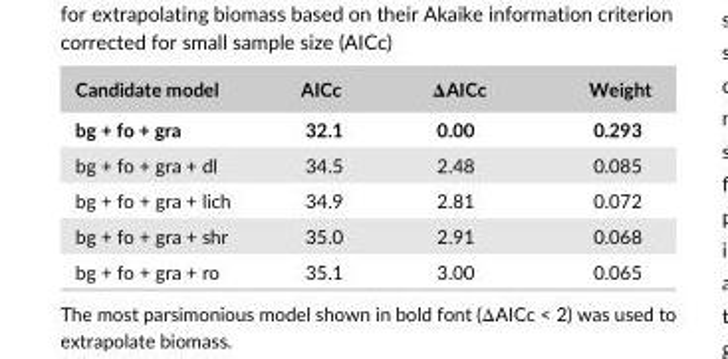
<table><thead><tr><td>Candidate model</td><td>AICc</td><td>ΔAICc</td><td>Weight</td></tr></thead><tbody><tr><td>bg + fo + gra</td><td>32.1</td><td>0.00</td><td>0.293</td></tr><tr><td>bg + fo + gra + dl</td><td>34.5</td><td>2.48</td><td>0.085</td></tr><tr><td>bg + fo + gra + lich</td><td>34.9</td><td>2.81</td><td>0.072</td></tr><tr><td>bg + fo + gra + shr</td><td>35.0</td><td>2.91</td><td>0.068</td></tr><tr><td>bg + fo + gra + ro</td><td>35.1</td><td>3.00</td><td>0.065</td></tr></tbody></table>